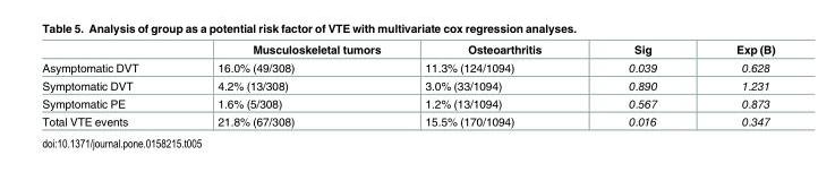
<table><thead><tr><td></td><td>Musculoskeletal tumors</td><td>Osteoarthritis</td><td>Sig</td><td>Exp (B)</td></tr></thead><tbody><tr><td>Asymptomatic DVT</td><td>16.0% (49/308)</td><td>11.3% (124/1094)</td><td>0.039</td><td>0.628</td></tr><tr><td>Symptomatic DVT</td><td>4.2% (13/308)</td><td>3.0% (33/1094)</td><td>0.890</td><td>1.231</td></tr><tr><td>Symptomatic PE</td><td>1.6% (5/308)</td><td>1.2% (13/1094)</td><td>0.567</td><td>0.873</td></tr><tr><td>Total VTE events</td><td>21.8% (67/308)</td><td>15.5% (170/1094)</td><td>0.016</td><td>0.347</td></tr></tbody></table>